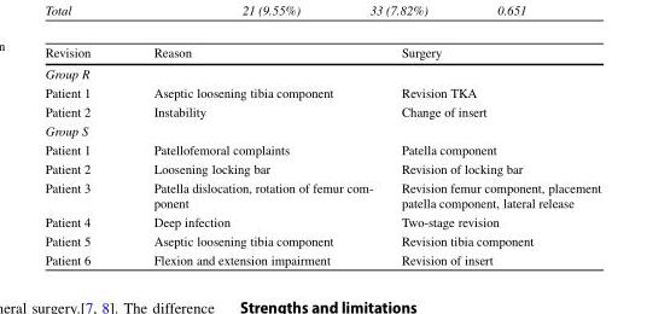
<table><thead><tr><td>Revision</td><td>Reason</td><td>Surgery</td></tr></thead><tbody><tr><td colspan="3">Group R</td></tr><tr><td>Patient 1</td><td>Aseptic loosening tibia component</td><td>Revision TKA</td></tr><tr><td>Patient 2</td><td>Instability</td><td>Change of insert</td></tr><tr><td colspan="3">Group S</td></tr><tr><td>Patient 1</td><td>Patellofemoral complaints</td><td>Patella component</td></tr><tr><td>Patient 2</td><td>Loosening locking bar</td><td>Revision of locking bar</td></tr><tr><td>Patient 3</td><td>Patella dislocation, rotation of femur com- ponent</td><td>Revision femur component, placement patella component, lateral release</td></tr><tr><td>Patient 4</td><td>Deep infection</td><td>Two-stage revision</td></tr><tr><td>Patient 5</td><td>Aseptic loosening tibia component</td><td>Revision tibia component</td></tr><tr><td>Patient 6</td><td>Flexion and extension impairment</td><td>Revision of insert</td></tr></tbody></table>